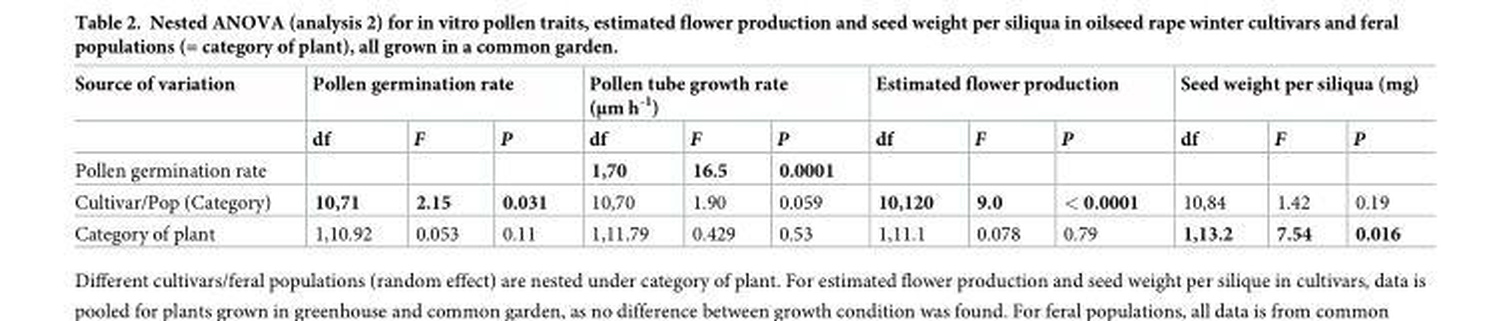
<table><thead><tr><td rowspan="2">Source of variation</td><td colspan="3">Pollen germination rate</td><td colspan="3">Pollen tube growth rate (μm h<sup>-1</sup>)</td><td colspan="3">Estimated flower production</td><td colspan="3">Seed weight per siliqua (mg)</td></tr><tr><td>df</td><td>F</td><td>P</td><td>df</td><td>F</td><td>P</td><td>df</td><td>F</td><td>P</td><td>df</td><td>F</td><td>P</td></tr></thead><tbody><tr><td>Pollen germination rate</td><td></td><td></td><td></td><td>1,70</td><td>16.5</td><td>0.0001</td><td></td><td></td><td></td><td></td><td></td><td></td></tr><tr><td>Cultivar/Pop (Category)</td><td>10,71</td><td>2.15</td><td>0.031</td><td>10,70</td><td>1.90</td><td>0.059</td><td>10,120</td><td>9.0</td><td>&lt; 0.0001</td><td>10,84</td><td>1.42</td><td>0.19</td></tr><tr><td>Category of plant</td><td>1,10.92</td><td>0.053</td><td>0.11</td><td>1,11.79</td><td>0.429</td><td>0.53</td><td>1,11.1</td><td>0.078</td><td>0.79</td><td>1,13.2</td><td>7.54</td><td>0.016</td></tr></tbody></table>